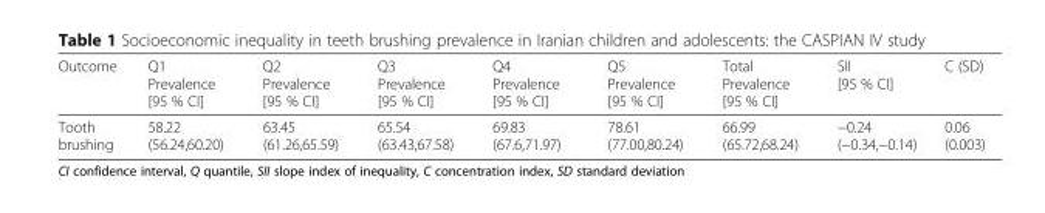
<table><thead><tr><td>Outcome</td><td>Q1 Prevalence [95 % CI]</td><td>Q2 Prevalence [95 % CI]</td><td>Q3 Prevalence [95 % CI]</td><td>Q4 Prevalence [95 % CI]</td><td>Q5 Prevalence [95 % CI]</td><td>Total Prevalence [95 % CI]</td><td>SII [95 % CI]</td><td>C (SD)</td></tr></thead><tbody><tr><td>Tooth brushing</td><td>58.22 (56.24,60.20)</td><td>63.45 (61.26,65.59)</td><td>65.54 (63.43,67.58)</td><td>69.83 (67.6,71.97)</td><td>78.61 (77.00,80.24)</td><td>66.99 (65.72,68.24)</td><td>−0.24 (−0.34,−0.14)</td><td>0.06 (0.003)</td></tr></tbody></table>